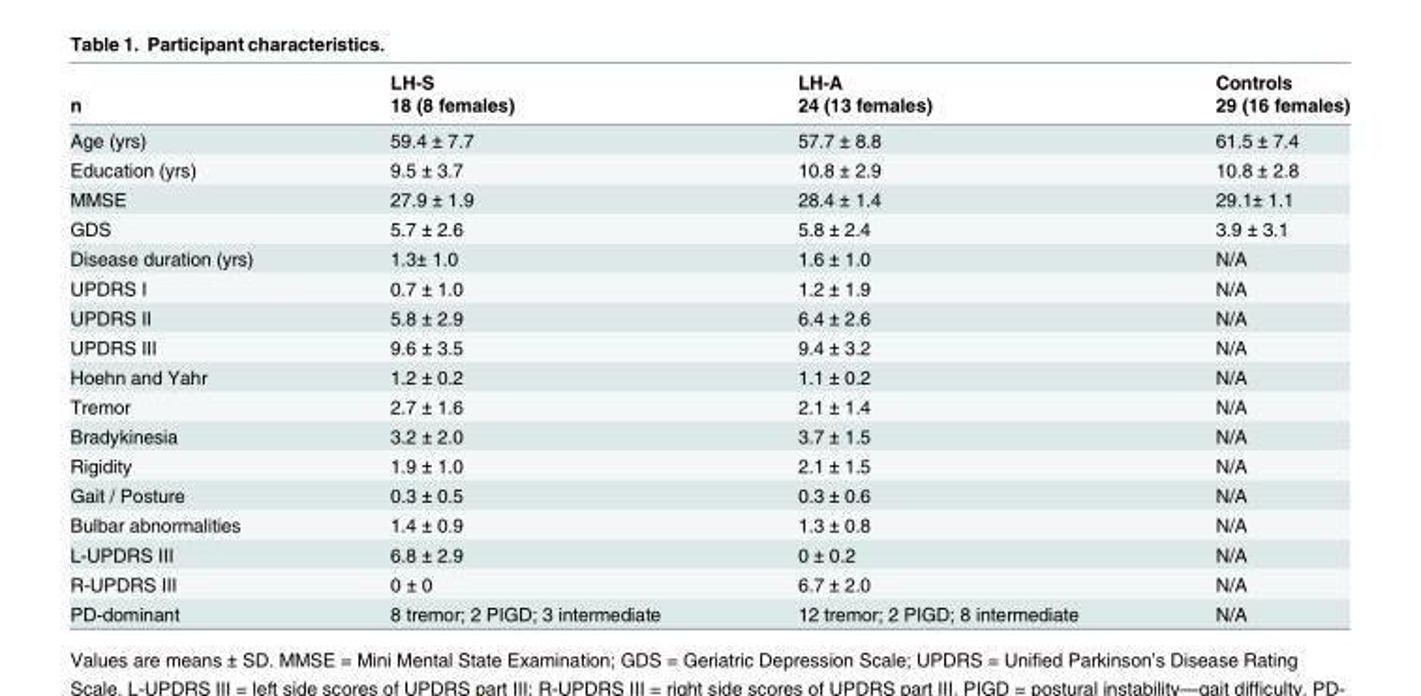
<table><thead><tr><td rowspan="2">n</td><td rowspan="2">LH-S 18 (8 females)</td><td rowspan="2">LH-A 24 (13 females)</td><td rowspan="2">Controls 29 (16 females)</td></tr><tr></tr></thead><tbody><tr><td>Age (yrs)</td><td>59.4 ± 7.7</td><td>57.7 ± 8.8</td><td>61.5 ± 7.4</td></tr><tr><td>Education (yrs)</td><td>9.5 ± 3.7</td><td>10.8 ± 2.9</td><td>10.8 ± 2.8</td></tr><tr><td>MMSE</td><td>27.9 ± 1.9</td><td>28.4 ± 1.4</td><td>29.1± 1.1</td></tr><tr><td>GDS</td><td>5.7 ± 2.6</td><td>5.8 ± 2.4</td><td>3.9 ± 3.1</td></tr><tr><td>Disease duration (yrs)</td><td>1.3± 1.0</td><td>1.6 ± 1.0</td><td>N/A</td></tr><tr><td>UPDRS I</td><td>0.7 ± 1.0</td><td>1.2 ± 1.9</td><td>N/A</td></tr><tr><td>UPDRS II</td><td>5.8 ± 2.9</td><td>6.4 ± 2.6</td><td>N/A</td></tr><tr><td>UPDRS III</td><td>9.6 ± 3.5</td><td>9.4 ± 3.2</td><td>N/A</td></tr><tr><td>Hoehn and Yahr</td><td>1.2 ± 0.2</td><td>1.1 ± 0.2</td><td>N/A</td></tr><tr><td>Tremor</td><td>2.7 ± 1.6</td><td>2.1 ± 1.4</td><td>N/A</td></tr><tr><td>Bradykinesia</td><td>3.2 ± 2.0</td><td>3.7 ± 1.5</td><td>N/A</td></tr><tr><td>Rigidity</td><td>1.9 ± 1.0</td><td>2.1 ± 1.5</td><td>N/A</td></tr><tr><td>Gait / Posture</td><td>0.3 ± 0.5</td><td>0.3 ± 0.6</td><td>N/A</td></tr><tr><td>Bulbar abnormalities</td><td>1.4 ± 0.9</td><td>1.3 ± 0.8</td><td>N/A</td></tr><tr><td>L-UPDRS III</td><td>6.8 ± 2.9</td><td>0 ± 0.2</td><td>N/A</td></tr><tr><td>R-UPDRS III</td><td>0 ± 0</td><td>6.7 ± 2.0</td><td>N/A</td></tr><tr><td>PD-dominant</td><td>8 tremor; 2 PIGD; 3 intermediate</td><td>12 tremor; 2 PIGD; 8 intermediate</td><td>N/A</td></tr></tbody></table>